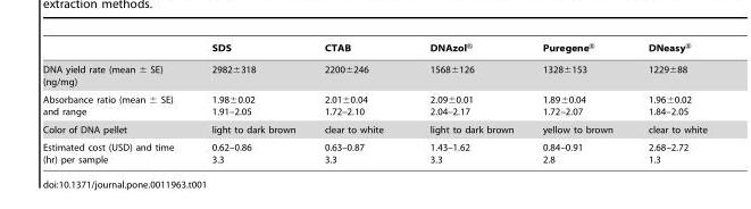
<table><thead><tr><td></td><td>SDS</td><td>CTAB</td><td>DNAzol®</td><td>Puregene®</td><td>DNeasy®</td></tr></thead><tbody><tr><td>DNA yield rate (mean ± SE) (ng/mg)</td><td>2982±318</td><td>2200±246</td><td>1568±126</td><td>1328±153</td><td>1229±88</td></tr><tr><td>Absorbance ratio (mean ± SE) and range</td><td>1.98±0.02 1.91–2.05</td><td>2.01±0.04 1.72–2.10</td><td>2.09±0.01 2.04–2.17</td><td>1.89±0.04 1.72–2.07</td><td>1.96±0.02 1.84–2.05</td></tr><tr><td>Color of DNA pellet</td><td>light to dark brown</td><td>clear to white</td><td>light to dark brown</td><td>yellow to brown</td><td>clear to white</td></tr><tr><td>Estimated cost (USD) and time (hr) per sample</td><td>0.62–0.86 3.3</td><td>0.63–0.87 3.3</td><td>1.43–1.62 3.3</td><td>0.84–0.91 2.8</td><td>2.68–2.72 1.3</td></tr></tbody></table>